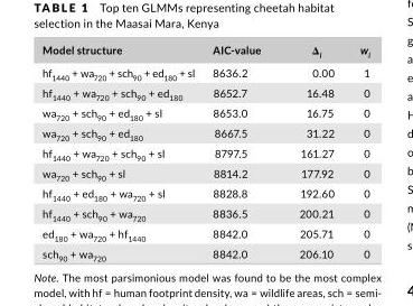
<table><thead><tr><td>Model structure</td><td>AIC- value</td><td>Δ<sub>i</sub></td><td>w<sub>i</sub></td></tr></thead><tbody><tr><td>hf<sub>1440</sub> + wa<sub>720</sub> + sch<sub>90</sub> + ed<sub>180</sub> + sl</td><td>8636.2</td><td>0.00</td><td>1</td></tr><tr><td>hf<sub>1440</sub> + wa<sub>720</sub> + sch<sub>90</sub> + ed<sub>180</sub></td><td>8652.7</td><td>16.48</td><td>0</td></tr><tr><td>wa<sub>720</sub> + sch<sub>90</sub> + ed<sub>180</sub> + sl</td><td>8653.0</td><td>16.75</td><td>0</td></tr><tr><td>wa<sub>720</sub> + sch<sub>90</sub> + ed<sub>180</sub></td><td>8667.5</td><td>31.22</td><td>0</td></tr><tr><td>hf<sub>1440</sub> + wa<sub>720</sub> + sch<sub>90</sub> + sl</td><td>8797.5</td><td>161.27</td><td>0</td></tr><tr><td>wa<sub>720</sub> + sch<sub>90</sub> + sl</td><td>8814.2</td><td>177.92</td><td>0</td></tr><tr><td>hf<sub>1440</sub> + ed<sub>180</sub> + wa<sub>720</sub> + sl</td><td>8828.8</td><td>192.60</td><td>0</td></tr><tr><td>hf<sub>1440</sub> + sch<sub>90</sub> + wa<sub>720</sub></td><td>8836.5</td><td>200.21</td><td>0</td></tr><tr><td>ed<sub>180</sub> + wa<sub>720</sub> + hf<sub>1440</sub></td><td>8842.0</td><td>205.71</td><td>0</td></tr><tr><td>sch<sub>90</sub> + wa<sub>720</sub></td><td>8842.0</td><td>206.10</td><td>0</td></tr></tbody></table>